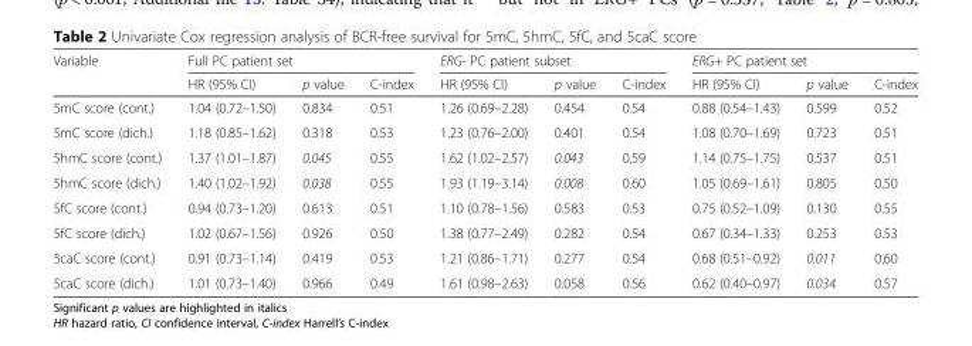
<table><thead><tr><td rowspan="2">Variable</td><td colspan="3">Full PC patient set</td><td colspan="3">ERG- PC patient subset</td><td colspan="3">ERG+ PC patient set</td></tr><tr><td>HR (95% CI)</td><td>p value</td><td>C-index</td><td>HR (95% CI)</td><td>p value</td><td>C-index</td><td>HR (95% CI)</td><td>p value</td><td>C-index</td></tr></thead><tbody><tr><td>5mC score (cont.)</td><td>1.04 (0.72–1.50)</td><td>0.834</td><td>0.51</td><td>1.26 (0.69–2.28)</td><td>0.454</td><td>0.54</td><td>0.88 (0.54–1.43)</td><td>0.599</td><td>0.52</td></tr><tr><td>5mC score (dich.)</td><td>1.18 (0.85–1.62)</td><td>0.318</td><td>0.53</td><td>1.23 (0.76–2.00)</td><td>0.401</td><td>0.54</td><td>1.08 (0.70–1.69)</td><td>0.723</td><td>0.51</td></tr><tr><td>5hmC score (cont.)</td><td>1.37 (1.01–1.87)</td><td>0.045</td><td>0.55</td><td>1.62 (1.02–2.57)</td><td>0.043</td><td>0.59</td><td>1.14 (0.75–1.75)</td><td>0.537</td><td>0.51</td></tr><tr><td>5hmC score (dich.)</td><td>1.40 (1.02–1.92)</td><td>0.038</td><td>0.55</td><td>1.93 (1.19–3.14)</td><td>0.008</td><td>0.60</td><td>1.05 (0.69–1.61)</td><td>0.805</td><td>0.50</td></tr><tr><td>5fC score (cont.)</td><td>0.94 (0.73–1.20)</td><td>0.613</td><td>0.51</td><td>1.10 (0.78–1.56)</td><td>0.583</td><td>0.53</td><td>0.75 (0.52–1.09)</td><td>0.130</td><td>0.55</td></tr><tr><td>5fC score (dich.)</td><td>1.02 (0.67–1.56)</td><td>0.926</td><td>0.50</td><td>1.38 (0.77–2.49)</td><td>0.282</td><td>0.54</td><td>0.67 (0.34–1.33)</td><td>0.253</td><td>0.53</td></tr><tr><td>5caC score (cont.)</td><td>0.91 (0.73–1.14)</td><td>0.419</td><td>0.53</td><td>1.21 (0.86–1.71)</td><td>0.277</td><td>0.54</td><td>0.68 (0.51–0.92)</td><td>0.011</td><td>0.60</td></tr><tr><td>5caC score (dich.)</td><td>1.01 (0.73–1.40)</td><td>0.966</td><td>0.49</td><td>1.61 (0.98–2.63)</td><td>0.058</td><td>0.56</td><td>0.62 (0.40–0.97)</td><td>0.034</td><td>0.57</td></tr></tbody></table>